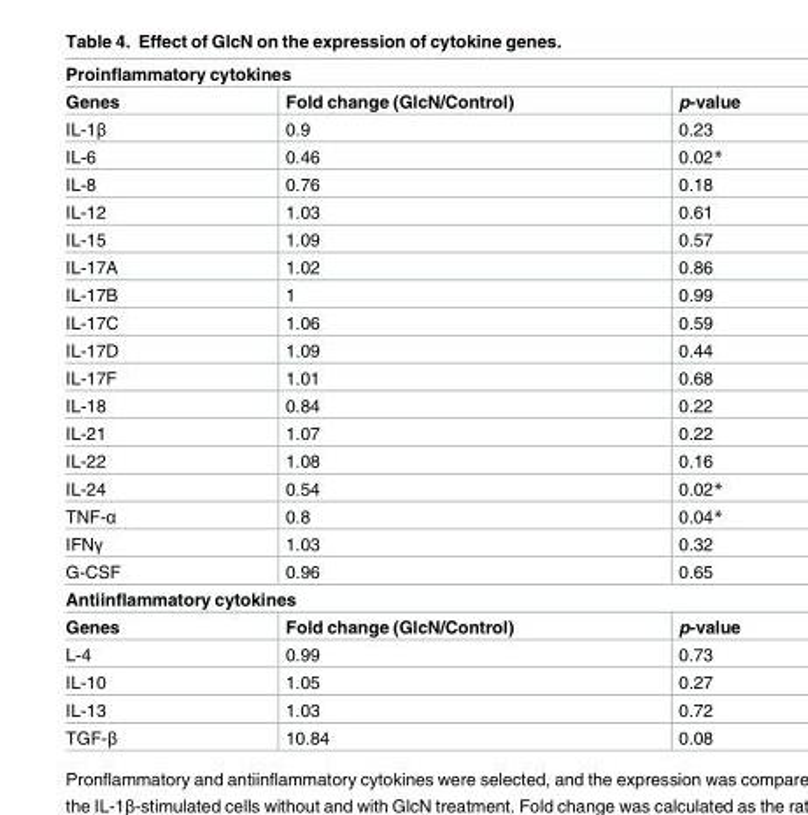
<table><tbody><tr><td colspan="3">Proinflammatory cytokines</td></tr><tr><td>Genes</td><td>Fold change (GlcN/Control)</td><td>p-value</td></tr><tr><td>IL-1β</td><td>0.9</td><td>0.23</td></tr><tr><td>IL-6</td><td>0.46</td><td>0.02*</td></tr><tr><td>IL-8</td><td>0.76</td><td>0.18</td></tr><tr><td>IL-12</td><td>1.03</td><td>0.61</td></tr><tr><td>IL-15</td><td>1.09</td><td>0.57</td></tr><tr><td>IL-17A</td><td>1.02</td><td>0.86</td></tr><tr><td>IL-17B</td><td>1</td><td>0.99</td></tr><tr><td>IL-17C</td><td>1.06</td><td>0.59</td></tr><tr><td>IL-17D</td><td>1.09</td><td>0.44</td></tr><tr><td>IL-17F</td><td>1.01</td><td>0.68</td></tr><tr><td>IL-18</td><td>0.84</td><td>0.22</td></tr><tr><td>IL-21</td><td>1.07</td><td>0.22</td></tr><tr><td>IL-22</td><td>1.08</td><td>0.16</td></tr><tr><td>IL-24</td><td>0.54</td><td>0.02*</td></tr><tr><td>TNF-α</td><td>0.8</td><td>0.04*</td></tr><tr><td>IFNγ</td><td>1.03</td><td>0.32</td></tr><tr><td>G-CSF</td><td>0.96</td><td>0.65</td></tr><tr><td colspan="3">Antiinflammatory cytokines</td></tr><tr><td>Genes</td><td>Fold change (GlcN/Control)</td><td>p-value</td></tr><tr><td>L-4</td><td>0.99</td><td>0.73</td></tr><tr><td>IL-10</td><td>1.05</td><td>0.27</td></tr><tr><td>IL-13</td><td>1.03</td><td>0.72</td></tr><tr><td>TGF-β</td><td>10.84</td><td>0.08</td></tr></tbody></table>